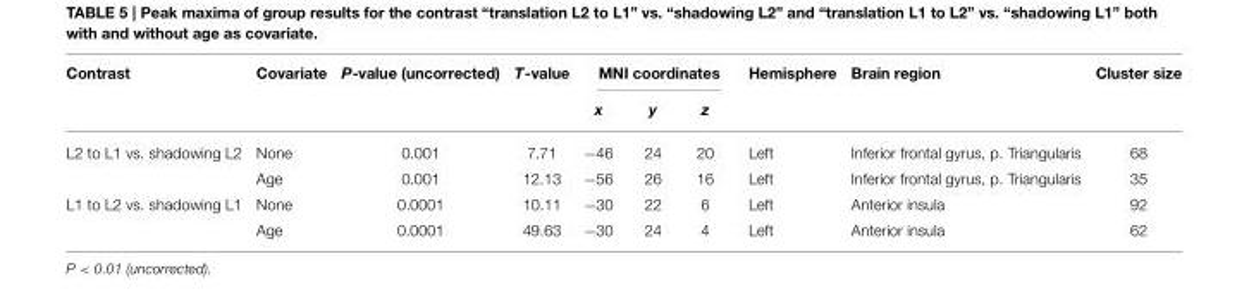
<table><thead><tr><td rowspan="2">Contrast</td><td rowspan="2">Covariate</td><td rowspan="2">P-value (uncorrected)</td><td rowspan="2">T-value</td><td colspan="3">MNI coordinates</td><td rowspan="2">Hemisphere</td><td rowspan="2">Brain region</td><td rowspan="2">Cluster size</td></tr><tr><td>x</td><td>y</td><td>z</td></tr></thead><tbody><tr><td rowspan="2">L2 to L1 vs. shadowing L2</td><td>None</td><td>0.001</td><td>7.71</td><td>−46</td><td>24</td><td>20</td><td>Left</td><td>Inferior frontal gyrus, p. Triangularis</td><td>68</td></tr><tr><td>Age</td><td>0.001</td><td>12.13</td><td>−56</td><td>26</td><td>16</td><td>Left</td><td>Inferior frontal gyrus, p. Triangularis</td><td>35</td></tr><tr><td rowspan="2">L1 to L2 vs. shadowing L1</td><td>None</td><td>0.0001</td><td>10.11</td><td>−30</td><td>22</td><td>6</td><td>Left</td><td>Anterior insula</td><td>92</td></tr><tr><td>Age</td><td>0.0001</td><td>49.63</td><td>−30</td><td>24</td><td>4</td><td>Left</td><td>Anterior insula</td><td>62</td></tr></tbody></table>